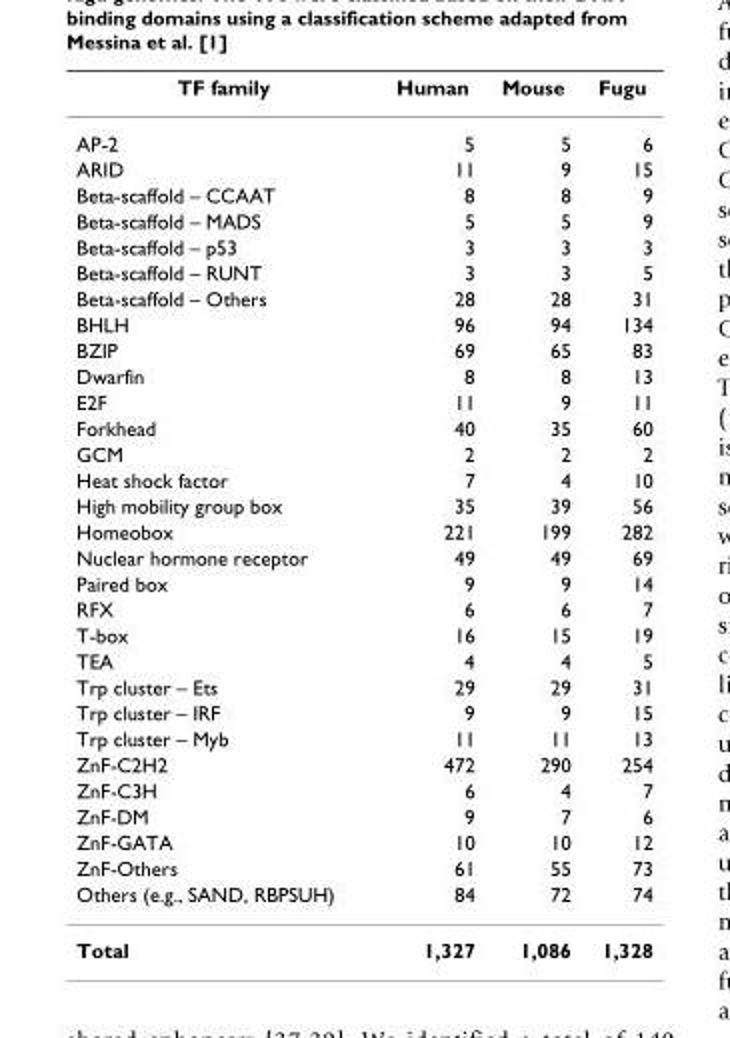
<table><thead><tr><td>TF family</td><td>Human</td><td>Mouse</td><td>Fugu</td></tr></thead><tbody><tr><td>AP-2</td><td>5</td><td>5</td><td>6</td></tr><tr><td>ARID</td><td>11</td><td>9</td><td>15</td></tr><tr><td>Beta-scaffold – CCAAT</td><td>8</td><td>8</td><td>9</td></tr><tr><td>Beta-scaffold – MADS</td><td>5</td><td>5</td><td>9</td></tr><tr><td>Beta-scaffold – p53</td><td>3</td><td>3</td><td>3</td></tr><tr><td>Beta-scaffold – RUNT</td><td>3</td><td>3</td><td>5</td></tr><tr><td>Beta-scaffold – Others</td><td>28</td><td>28</td><td>31</td></tr><tr><td>BHLH</td><td>96</td><td>94</td><td>134</td></tr><tr><td>BZIP</td><td>69</td><td>65</td><td>83</td></tr><tr><td>Dwarfin</td><td>8</td><td>8</td><td>13</td></tr><tr><td>E2F</td><td>11</td><td>9</td><td>11</td></tr><tr><td>Forkhead</td><td>40</td><td>35</td><td>60</td></tr><tr><td>GCM</td><td>2</td><td>2</td><td>2</td></tr><tr><td>Heat shock factor</td><td>7</td><td>4</td><td>10</td></tr><tr><td>High mobility group box</td><td>35</td><td>39</td><td>56</td></tr><tr><td>Homeobox</td><td>221</td><td>199</td><td>282</td></tr><tr><td>Nuclear hormone receptor</td><td>49</td><td>49</td><td>69</td></tr><tr><td>Paired box</td><td>9</td><td>9</td><td>14</td></tr><tr><td>RFX</td><td>6</td><td>6</td><td>7</td></tr><tr><td>T-box</td><td>16</td><td>15</td><td>19</td></tr><tr><td>TEA</td><td>4</td><td>4</td><td>5</td></tr><tr><td>Trp cluster – Ets</td><td>29</td><td>29</td><td>31</td></tr><tr><td>Trp cluster – IRF</td><td>9</td><td>9</td><td>15</td></tr><tr><td>Trp cluster – Myb</td><td>11</td><td>11</td><td>13</td></tr><tr><td>ZnF-C2H2</td><td>472</td><td>290</td><td>254</td></tr><tr><td>ZnF-C3H</td><td>6</td><td>4</td><td>7</td></tr><tr><td>ZnF-DM</td><td>9</td><td>7</td><td>6</td></tr><tr><td>ZnF-GATA</td><td>10</td><td>10</td><td>12</td></tr><tr><td>ZnF-Others</td><td>61</td><td>55</td><td>73</td></tr><tr><td>Others (e.g., SAND, RBPSUH)</td><td>84</td><td>72</td><td>74</td></tr><tr><td>Total</td><td>1,327</td><td>1,086</td><td>1,328</td></tr></tbody></table>